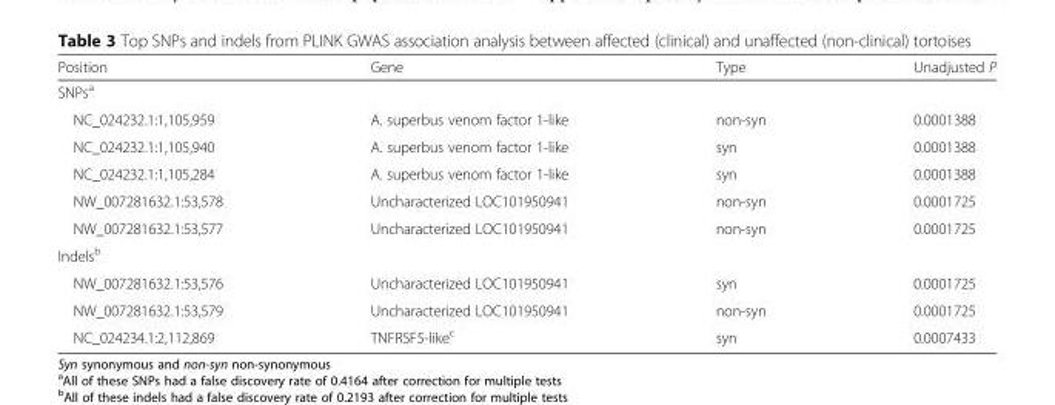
<table><thead><tr><td>Position</td><td>Gene</td><td>Type</td><td>Unadjusted P</td></tr></thead><tbody><tr><td colspan="4">SNPs<sup>a</sup></td></tr><tr><td>NC_024232.1:1,105,959</td><td>A. superbus venom factor 1-like</td><td>non-syn</td><td>0.0001388</td></tr><tr><td>NC_024232.1:1,105,940</td><td>A. superbus venom factor 1-like</td><td>syn</td><td>0.0001388</td></tr><tr><td>NC_024232.1:1,105,284</td><td>A. superbus venom factor 1-like</td><td>syn</td><td>0.0001388</td></tr><tr><td>NW_007281632.1:53,578</td><td>Uncharacterized LOC101950941</td><td>non-syn</td><td>0.0001725</td></tr><tr><td>NW_007281632.1:53,577</td><td>Uncharacterized LOC101950941</td><td>non-syn</td><td>0.0001725</td></tr><tr><td colspan="4">Indels<sup>b</sup></td></tr><tr><td>NW_007281632.1:53,576</td><td>Uncharacterized LOC101950941</td><td>syn</td><td>0.0001725</td></tr><tr><td>NW_007281632.1:53,579</td><td>Uncharacterized LOC101950941</td><td>non-syn</td><td>0.0001725</td></tr><tr><td>NC_024234.1:2,112,869</td><td>TNFRSF5-like<sup>c</sup></td><td>syn</td><td>0.0007433</td></tr></tbody></table>